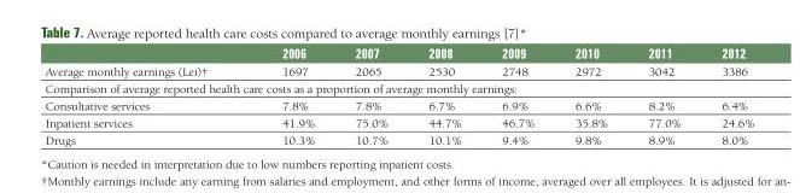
<table><thead><tr><td></td><td>2006</td><td>2007</td><td>2008</td><td>2009</td><td>2010</td><td>2011</td><td>2012</td></tr></thead><tbody><tr><td>Average monthly earnings (Lei)†</td><td>1697</td><td>2065</td><td>2530</td><td>2748</td><td>2972</td><td>3042</td><td>3386</td></tr><tr><td colspan="8">Comparison of average reported health care costs as a proportion of average monthly earnings:</td></tr><tr><td>Consultative services</td><td>7.8%</td><td>7.8%</td><td>6.7%</td><td>6.9%</td><td>6.6%</td><td>8.2%</td><td>6.4%</td></tr><tr><td>Inpatient services</td><td>41.9%</td><td>75.0%</td><td>44.7%</td><td>46.7%</td><td>35.8%</td><td>77.0%</td><td>24.6%</td></tr><tr><td>Drugs</td><td>10.3%</td><td>10.7%</td><td>10.1%</td><td>9.4%</td><td>9.8%</td><td>8.9%</td><td>8.0%</td></tr></tbody></table>